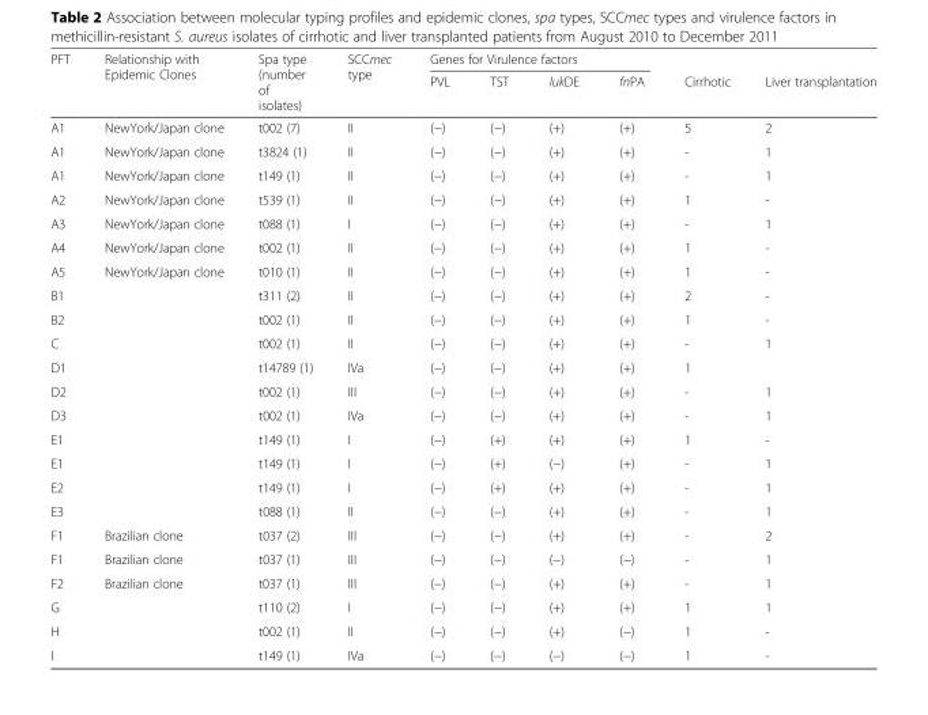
<table><thead><tr><td rowspan="2">PFT</td><td rowspan="2">Relationship with Epidemic Clones</td><td rowspan="2">Spa type (number of isolates)</td><td rowspan="2">SCCmec type</td><td colspan="4">Genes for Virulence factors</td><td rowspan="2">Cirrhotic</td><td rowspan="2">Liver transplantation</td></tr><tr><td>PVL</td><td>TST</td><td>lukDE</td><td>fnPA</td></tr></thead><tbody><tr><td>A1</td><td>NewYork/Japan clone</td><td>t002 (7)</td><td>II</td><td>(−)</td><td>(−)</td><td>(+)</td><td>(+)</td><td>5</td><td>2</td></tr><tr><td>A1</td><td>NewYork/Japan clone</td><td>t3824 (1)</td><td>II</td><td>(−)</td><td>(−)</td><td>(+)</td><td>(+)</td><td>-</td><td>1</td></tr><tr><td>A1</td><td>NewYork/Japan clone</td><td>t149 (1)</td><td>II</td><td>(−)</td><td>(−)</td><td>(+)</td><td>(+)</td><td>-</td><td>1</td></tr><tr><td>A2</td><td>NewYork/Japan clone</td><td>t539 (1)</td><td>II</td><td>(−)</td><td>(−)</td><td>(+)</td><td>(+)</td><td>1</td><td>-</td></tr><tr><td>A3</td><td>NewYork/Japan clone</td><td>t088 (1)</td><td>I</td><td>(−)</td><td>(−)</td><td>(+)</td><td>(+)</td><td>-</td><td>1</td></tr><tr><td>A4</td><td>NewYork/Japan clone</td><td>t002 (1)</td><td>II</td><td>(−)</td><td>(−)</td><td>(+)</td><td>(+)</td><td>1</td><td>-</td></tr><tr><td>A5</td><td>NewYork/Japan clone</td><td>t010 (1)</td><td>II</td><td>(−)</td><td>(−)</td><td>(+)</td><td>(+)</td><td>1</td><td>-</td></tr><tr><td>B1</td><td></td><td>t311 (2)</td><td>II</td><td>(−)</td><td>(−)</td><td>(+)</td><td>(+)</td><td>2</td><td>-</td></tr><tr><td>B2</td><td></td><td>t002 (1)</td><td>II</td><td>(−)</td><td>(−)</td><td>(+)</td><td>(+)</td><td>1</td><td>-</td></tr><tr><td>C</td><td></td><td>t002 (1)</td><td>II</td><td>(−)</td><td>(−)</td><td>(+)</td><td>(+)</td><td>-</td><td>1</td></tr><tr><td>D1</td><td></td><td>t14789 (1)</td><td>IVa</td><td>(−)</td><td>(−)</td><td>(+)</td><td>(+)</td><td>1</td><td></td></tr><tr><td>D2</td><td></td><td>t002 (1)</td><td>III</td><td>(−)</td><td>(−)</td><td>(+)</td><td>(+)</td><td>-</td><td>1</td></tr><tr><td>D3</td><td></td><td>t002 (1)</td><td>IVa</td><td>(−)</td><td>(−)</td><td>(+)</td><td>(+)</td><td>-</td><td>1</td></tr><tr><td>E1</td><td></td><td>t149 (1)</td><td>I</td><td>(−)</td><td>(+)</td><td>(+)</td><td>(+)</td><td>1</td><td>-</td></tr><tr><td>E1</td><td></td><td>t149 (1)</td><td>I</td><td>(−)</td><td>(+)</td><td>(−)</td><td>(+)</td><td>-</td><td>1</td></tr><tr><td>E2</td><td></td><td>t149 (1)</td><td>I</td><td>(−)</td><td>(+)</td><td>(+)</td><td>(+)</td><td>-</td><td>1</td></tr><tr><td>E3</td><td></td><td>t088 (1)</td><td>II</td><td>(−)</td><td>(−)</td><td>(+)</td><td>(+)</td><td>-</td><td>1</td></tr><tr><td>F1</td><td>Brazilian clone</td><td>t037 (2)</td><td>III</td><td>(−)</td><td>(−)</td><td>(+)</td><td>(+)</td><td>-</td><td>2</td></tr><tr><td>F1</td><td>Brazilian clone</td><td>t037 (1)</td><td>III</td><td>(−)</td><td>(−)</td><td>(−)</td><td>(−)</td><td>-</td><td>1</td></tr><tr><td>F2</td><td>Brazilian clone</td><td>t037 (1)</td><td>III</td><td>(−)</td><td>(−)</td><td>(+)</td><td>(+)</td><td>-</td><td>1</td></tr><tr><td>G</td><td></td><td>t110 (2)</td><td>I</td><td>(−)</td><td>(−)</td><td>(+)</td><td>(+)</td><td>1</td><td>1</td></tr><tr><td>H</td><td></td><td>t002 (1)</td><td>II</td><td>(−)</td><td>(−)</td><td>(+)</td><td>(−)</td><td>1</td><td>-</td></tr><tr><td>I</td><td></td><td>t149 (1)</td><td>IVa</td><td>(−)</td><td>(−)</td><td>(−)</td><td>(−)</td><td>1</td><td>-</td></tr></tbody></table>